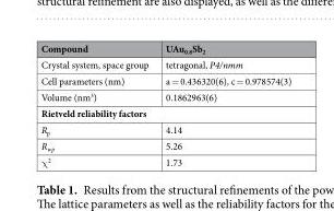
<table><thead><tr><td>Compound</td><td>UAu<sub>0.8</sub>Sb<sub>2</sub></td></tr></thead><tbody><tr><td>Crystal system, space group</td><td>tetragonal, P4/nmm</td></tr><tr><td>Cell parameters (nm)</td><td>a = 0.436320(6), c = 0.978574(3)</td></tr><tr><td>Volume (nm<sup>3</sup>)</td><td>0.1862963(6)</td></tr><tr><td colspan="2">Rietveld reliability factors</td></tr><tr><td>R<sub>p</sub></td><td>4.14</td></tr><tr><td>R<sub>wp</sub></td><td>5.26</td></tr><tr><td>χ<sup>2</sup></td><td>1.73</td></tr></tbody></table>